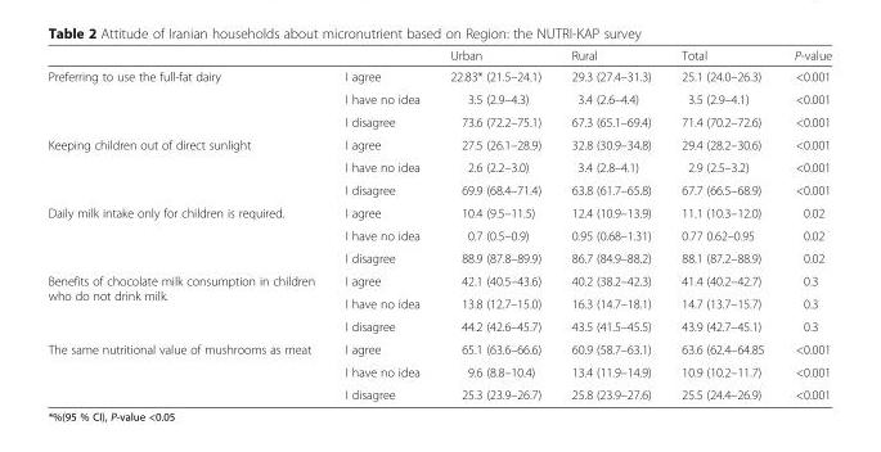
<table><thead><tr><td></td><td></td><td>Urban</td><td>Rural</td><td>Total</td><td>P-value</td></tr></thead><tbody><tr><td rowspan="3">Preferring to use the full-fat dairy</td><td>I agree</td><td>22.83* (21.5–24.1)</td><td>29.3 (27.4–31.3)</td><td>25.1 (24.0–26.3)</td><td>&lt;0.001</td></tr><tr><td>I have no idea</td><td>3.5 (2.9–4.3)</td><td>3.4 (2.6–4.4)</td><td>3.5 (2.9–4.1)</td><td>&lt;0.001</td></tr><tr><td>I disagree</td><td>73.6 (72.2–75.1)</td><td>67.3 (65.1–69.4)</td><td>71.4 (70.2–72.6)</td><td>&lt;0.001</td></tr><tr><td rowspan="3">Keeping children out of direct sunlight</td><td>I agree</td><td>27.5 (26.1–28.9)</td><td>32.8 (30.9–34.8)</td><td>29.4 (28.2–30.6)</td><td>&lt;0.001</td></tr><tr><td>I have no idea</td><td>2.6 (2.2–3.0)</td><td>3.4 (2.8–4.1)</td><td>2.9 (2.5–3.2)</td><td>&lt;0.001</td></tr><tr><td>I disagree</td><td>69.9 (68.4–71.4)</td><td>63.8 (61.7–65.8)</td><td>67.7 (66.5–68.9)</td><td>&lt;0.001</td></tr><tr><td rowspan="3">Daily milk intake only for children is required.</td><td>I agree</td><td>10.4 (9.5–11.5)</td><td>12.4 (10.9–13.9)</td><td>11.1 (10.3–12.0)</td><td>0.02</td></tr><tr><td>I have no idea</td><td>0.7 (0.5–0.9)</td><td>0.95 (0.68–1.31)</td><td>0.77 0.62–0.95</td><td>0.02</td></tr><tr><td>I disagree</td><td>88.9 (87.8–89.9)</td><td>86.7 (84.9–88.2)</td><td>88.1 (87.2–88.9)</td><td>0.02</td></tr><tr><td rowspan="3">Benefits of chocolate milk consumption in children who do not drink milk.</td><td>I agree</td><td>42.1 (40.5–43.6)</td><td>40.2 (38.2–42.3)</td><td>41.4 (40.2–42.7)</td><td>0.3</td></tr><tr><td>I have no idea</td><td>13.8 (12.7–15.0)</td><td>16.3 (14.7–18.1)</td><td>14.7 (13.7–15.7)</td><td>0.3</td></tr><tr><td>I disagree</td><td>44.2 (42.6–45.7)</td><td>43.5 (41.5–45.5)</td><td>43.9 (42.7–45.1)</td><td>0.3</td></tr><tr><td rowspan="3">The same nutritional value of mushrooms as meat</td><td>I agree</td><td>65.1 (63.6–66.6)</td><td>60.9 (58.7–63.1)</td><td>63.6 (62.4–64.85</td><td>&lt;0.001</td></tr><tr><td>I have no idea</td><td>9.6 (8.8–10.4)</td><td>13.4 (11.9–14.9)</td><td>10.9 (10.2–11.7)</td><td>&lt;0.001</td></tr><tr><td>I disagree</td><td>25.3 (23.9–26.7)</td><td>25.8 (23.9–27.6)</td><td>25.5 (24.4–26.9)</td><td>&lt;0.001</td></tr></tbody></table>